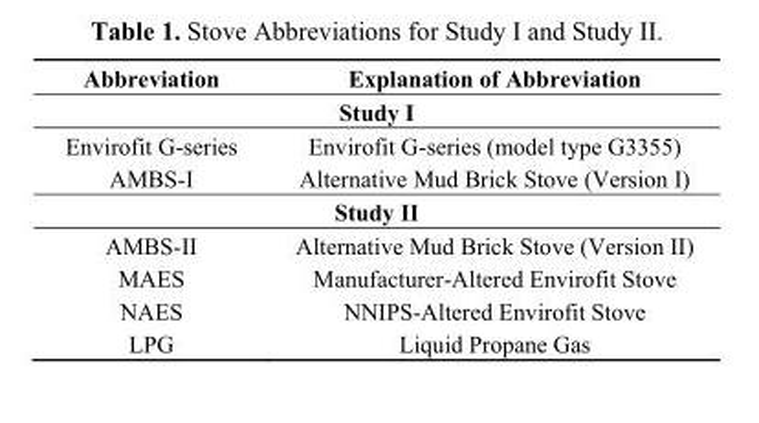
<table><thead><tr><td>Abbreviation</td><td>Explanation of Abbreviation</td></tr></thead><tbody><tr><td colspan="2">Study I</td></tr><tr><td>Envirofit G-series</td><td>Envirofit G-series (model type G3355)</td></tr><tr><td>AMBS-I</td><td>Alternative Mud Brick Stove (Version I)</td></tr><tr><td colspan="2">Study II</td></tr><tr><td>AMBS-II</td><td>Alternative Mud Brick Stove (Version II)</td></tr><tr><td>MAES</td><td>Manufacturer-Altered Envirofit Stove</td></tr><tr><td>NAES</td><td>NNIPS-Altered Envirofit Stove</td></tr><tr><td>LPG</td><td>Liquid Propane Gas</td></tr></tbody></table>